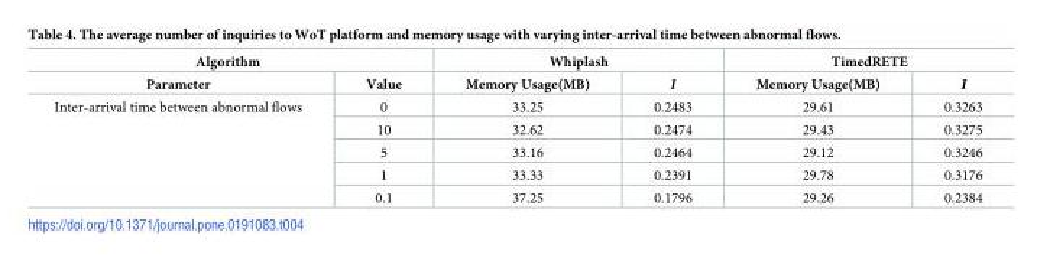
<table><thead><tr><td colspan="2">Algorithm</td><td colspan="2">Whiplash</td><td colspan="2">TimedRETE</td></tr><tr><td>Parameter</td><td>Value</td><td>Memory Usage(MB)</td><td>I</td><td>Memory Usage(MB)</td><td>I</td></tr></thead><tbody><tr><td rowspan="5">Inter-arrival time between abnormal flows</td><td>0</td><td>33.25</td><td>0.2483</td><td>29.61</td><td>0.3263</td></tr><tr><td>10</td><td>32.62</td><td>0.2474</td><td>29.43</td><td>0.3275</td></tr><tr><td>5</td><td>33.16</td><td>0.2464</td><td>29.12</td><td>0.3246</td></tr><tr><td>1</td><td>33.33</td><td>0.2391</td><td>29.78</td><td>0.3176</td></tr><tr><td>0.1</td><td>37.25</td><td>0.1796</td><td>29.26</td><td>0.2384</td></tr></tbody></table>